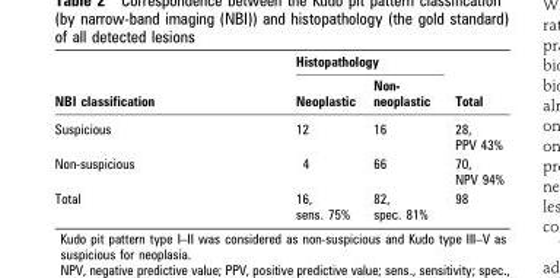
<table><thead><tr><td rowspan="2">NBI classification</td><td colspan="2">Histopathology</td><td rowspan="2">Total</td></tr><tr><td>Neoplastic</td><td>Non- neoplastic</td></tr></thead><tbody><tr><td>Suspicious</td><td>12</td><td>16</td><td>28, PPV 43%</td></tr><tr><td>Non-suspicious</td><td>4</td><td>66</td><td>70, NPV 94%</td></tr><tr><td>Total</td><td>16, sens. 75%</td><td>82, spec. 81%</td><td>98</td></tr></tbody></table>